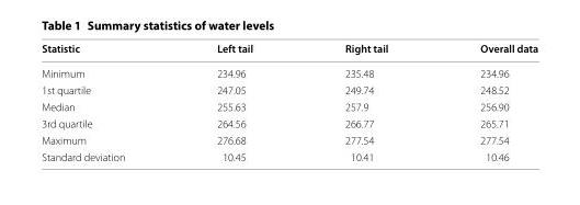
<table><thead><tr><td>Statistic</td><td>Left tail</td><td>Right tail</td><td>Overall data</td></tr></thead><tbody><tr><td>Minimum</td><td>234.96</td><td>235.48</td><td>234.96</td></tr><tr><td>1st quartile</td><td>247.05</td><td>249.74</td><td>248.52</td></tr><tr><td>Median</td><td>255.63</td><td>257.9</td><td>256.90</td></tr><tr><td>3rd quartile</td><td>264.56</td><td>266.77</td><td>265.71</td></tr><tr><td>Maximum</td><td>276.68</td><td>277.54</td><td>277.54</td></tr><tr><td>Standard deviation</td><td>10.45</td><td>10.41</td><td>10.46</td></tr></tbody></table>